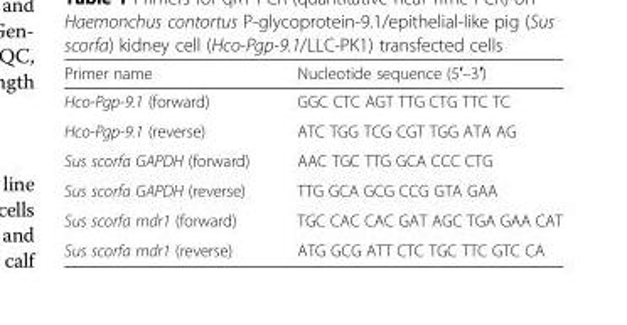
<table><thead><tr><td>Primer name</td><td>Nucleotide sequence (5′–3′)</td></tr></thead><tbody><tr><td>Hco-Pgp-9.1 (forward)</td><td>GGC CTC AGT TTG CTG TTC TC</td></tr><tr><td>Hco-Pgp-9.1 (reverse)</td><td>ATC TGG TCG CGT TGG ATA AG</td></tr><tr><td>Sus scorfa GAPDH (forward)</td><td>AAC TGC TTG GCA CCC CTG</td></tr><tr><td>Sus scorfa GAPDH (reverse)</td><td>TTG GCA GCG CCG GTA GAA</td></tr><tr><td>Sus scorfa mdr1 (forward)</td><td>TGC CAC CAC GAT AGC TGA GAA CAT</td></tr><tr><td>Sus scorfa mdr1 (reverse)</td><td>ATG GCG ATT CTC TGC TTC GTC CA</td></tr></tbody></table>